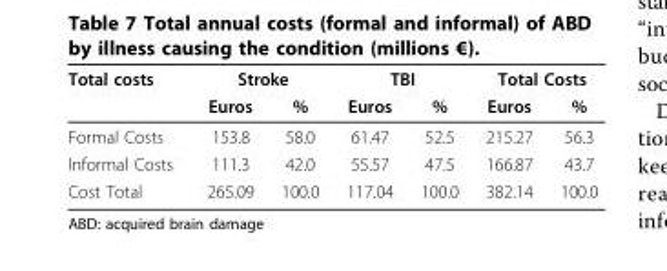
<table><thead><tr><td rowspan="2">Total costs</td><td colspan="2">Stroke</td><td colspan="2">TBI</td><td colspan="2">Total Costs</td></tr><tr><td>Euros</td><td>%</td><td>Euros</td><td>%</td><td>Euros</td><td>%</td></tr></thead><tbody><tr><td>Formal Costs</td><td>153.8</td><td>58.0</td><td>61.47</td><td>52.5</td><td>215.27</td><td>56.3</td></tr><tr><td>Informal Costs</td><td>111.3</td><td>42.0</td><td>55.57</td><td>47.5</td><td>166.87</td><td>43.7</td></tr><tr><td>Cost Total</td><td>265.09</td><td>100.0</td><td>117.04</td><td>100.0</td><td>382.14</td><td>100.0</td></tr></tbody></table>